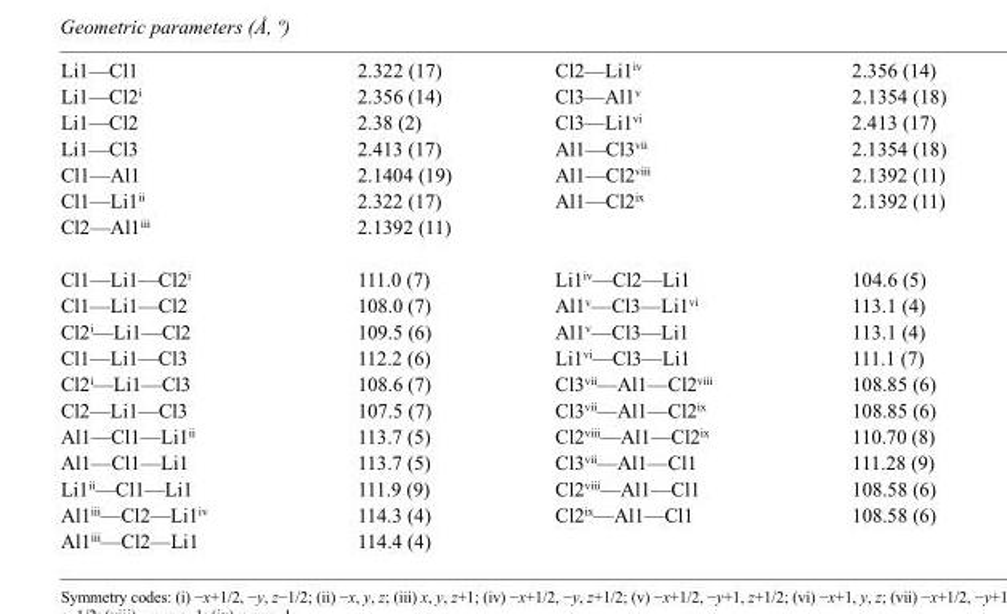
<table><tbody><tr><td>Li1—Cl1</td><td>2.322 (17)</td><td>Cl2—Li1<sup>iv</sup></td><td>2.356 (14)</td></tr><tr><td>Li1—Cl2<sup>i</sup></td><td>2.356 (14)</td><td>Cl3—Al1<sup>v</sup></td><td>2.1354 (18)</td></tr><tr><td>Li1—Cl2</td><td>2.38 (2)</td><td>Cl3—Li1<sup>vi</sup></td><td>2.413 (17)</td></tr><tr><td>Li1—Cl3</td><td>2.413 (17)</td><td>Al1—Cl3<sup>vii</sup></td><td>2.1354 (18)</td></tr><tr><td>Cl1—Al1</td><td>2.1404 (19)</td><td>Al1—Cl2<sup>viii</sup></td><td>2.1392 (11)</td></tr><tr><td>Cl1—Li1<sup>ii</sup></td><td>2.322 (17)</td><td>Al1—Cl2<sup>ix</sup></td><td>2.1392 (11)</td></tr><tr><td>Cl2—Al1<sup>iii</sup></td><td>2.1392 (11)</td><td></td><td></td></tr><tr><td>Cl1—Li1—Cl2<sup>i</sup></td><td>111.0 (7)</td><td>Li1<sup>iv</sup>—Cl2—Li1</td><td>104.6 (5)</td></tr><tr><td>Cl1—Li1—Cl2</td><td>108.0 (7)</td><td>Al1<sup>v</sup>—Cl3—Li1<sup>vi</sup></td><td>113.1 (4)</td></tr><tr><td>Cl2<sup>i</sup>—Li1—Cl2</td><td>109.5 (6)</td><td>Al1<sup>v</sup>—Cl3—Li1</td><td>113.1 (4)</td></tr><tr><td>Cl1—Li1—Cl3</td><td>112.2 (6)</td><td>Li1<sup>vi</sup>—Cl3—Li1</td><td>111.1 (7)</td></tr><tr><td>Cl2<sup>i</sup>—Li1—Cl3</td><td>108.6 (7)</td><td>Cl3<sup>vii</sup>—Al1—Cl2<sup>viii</sup></td><td>108.85 (6)</td></tr><tr><td>Cl2—Li1—Cl3</td><td>107.5 (7)</td><td>Cl3<sup>vii</sup>—Al1—Cl2<sup>ix</sup></td><td>108.85 (6)</td></tr><tr><td>Al1—Cl1—Li1<sup>ii</sup></td><td>113.7 (5)</td><td>Cl2<sup>viii</sup>—Al1—Cl2<sup>ix</sup></td><td>110.70 (8)</td></tr><tr><td>Al1—Cl1—Li1</td><td>113.7 (5)</td><td>Cl3<sup>vii</sup>—Al1—Cl1</td><td>111.28 (9)</td></tr><tr><td>Li1<sup>ii</sup>—Cl1—Li1</td><td>111.9 (9)</td><td>Cl2<sup>viii</sup>—Al1—Cl1</td><td>108.58 (6)</td></tr><tr><td>Al1<sup>iii</sup>—Cl2—Li1<sup>iv</sup></td><td>114.3 (4)</td><td>Cl2<sup>ix</sup>—Al1—Cl1</td><td>108.58 (6)</td></tr><tr><td>Al1<sup>iii</sup>—Cl2—Li1</td><td>114.4 (4)</td><td></td><td></td></tr></tbody></table>